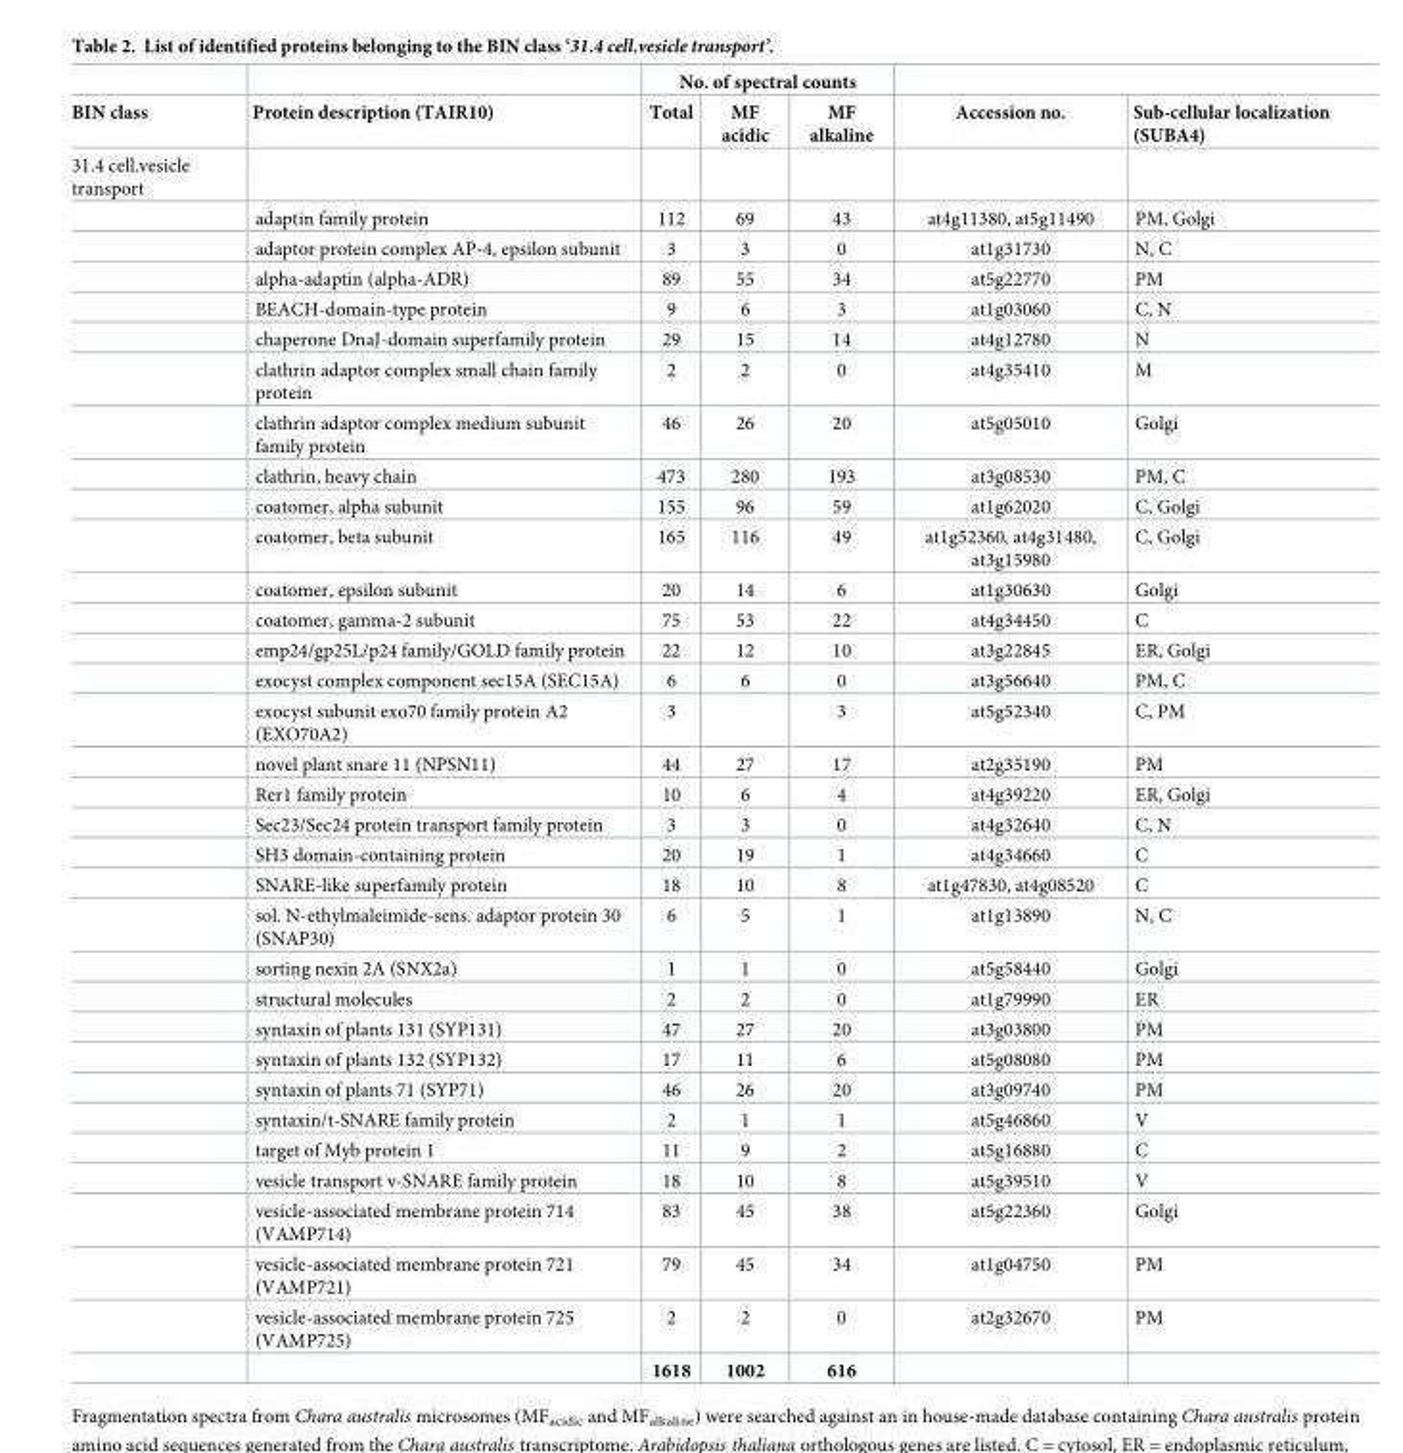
<table><thead><tr><td rowspan="2">BIN class</td><td rowspan="2">Protein description (TAIR10)</td><td colspan="3">No. of spectral counts</td><td rowspan="2">Accession no.</td><td rowspan="2">Sub-cellular localization (SUBA4)</td></tr><tr><td>Total</td><td>MF acidic</td><td>MF alkaline</td></tr></thead><tbody><tr><td colspan="7">31.4 cell.vesicle transport</td></tr><tr><td></td><td>adaptin family protein</td><td>112</td><td>69</td><td>43</td><td>at4g11380, at5g11490</td><td>PM, Golgi</td></tr><tr><td></td><td>adaptor protein complex AP-4, epsilon subunit</td><td>3</td><td>3</td><td>0</td><td>at1g31730</td><td>N, C</td></tr><tr><td></td><td>alpha-adaptin (alpha-ADR)</td><td>89</td><td>55</td><td>34</td><td>at5g22770</td><td>PM</td></tr><tr><td></td><td>BEACH-domain-type protein</td><td>9</td><td>6</td><td>3</td><td>at1g03060</td><td>C, N</td></tr><tr><td></td><td>chaperone DnaJ-domain superfamily protein</td><td>29</td><td>15</td><td>14</td><td>at4g12780</td><td>N</td></tr><tr><td></td><td>clathrin adaptor complex small chain family protein</td><td>2</td><td>2</td><td>0</td><td>at4g35410</td><td>M</td></tr><tr><td></td><td>clathrin adaptor complex medium subunit family protein</td><td>46</td><td>26</td><td>20</td><td>at5g05010</td><td>Golgi</td></tr><tr><td></td><td>clathrin, heavy chain</td><td>473</td><td>280</td><td>193</td><td>at3g08530</td><td>PM, C</td></tr><tr><td></td><td>coatomer, alpha subunit</td><td>155</td><td>96</td><td>59</td><td>at1g62020</td><td>C, Golgi</td></tr><tr><td></td><td>coatomer, beta subunit</td><td>165</td><td>116</td><td>49</td><td>at1g52360, at4g31480, at3g15980</td><td>C, Golgi</td></tr><tr><td></td><td>coatomer, epsilon subunit</td><td>20</td><td>14</td><td>6</td><td>at1g30630</td><td>Golgi</td></tr><tr><td></td><td>coatomer, gamma-2 subunit</td><td>75</td><td>53</td><td>22</td><td>at4g34450</td><td>C</td></tr><tr><td></td><td>emp24/gp25L/p24 family/GOLD family protein</td><td>22</td><td>12</td><td>10</td><td>at3g22845</td><td>ER, Golgi</td></tr><tr><td></td><td>exocyst complex component sec15A (SEC15A)</td><td>6</td><td>6</td><td>0</td><td>at3g56640</td><td>PM, C</td></tr><tr><td></td><td>exocyst subunit exo70 family protein A2 (EXO70A2)</td><td>3</td><td></td><td>3</td><td>at5g52340</td><td>C, PM</td></tr><tr><td></td><td>novel plant snare 11 (NPSN11)</td><td>44</td><td>27</td><td>17</td><td>at2g35190</td><td>PM</td></tr><tr><td></td><td>Rer1 family protein</td><td>10</td><td>6</td><td>4</td><td>at4g39220</td><td>ER, Golgi</td></tr><tr><td></td><td>Sec23/Sec24 protein transport family protein</td><td>3</td><td>3</td><td>0</td><td>at4g32640</td><td>C, N</td></tr><tr><td></td><td>SH3 domain-containing protein</td><td>20</td><td>19</td><td>1</td><td>at4g34660</td><td>C</td></tr><tr><td></td><td>SNARE-like superfamily protein</td><td>18</td><td>10</td><td>8</td><td>at1g47830, at4g08520</td><td>C</td></tr><tr><td></td><td>sol. N-ethylmaleimide-sens. adaptor protein 30 (SNAP30)</td><td>6</td><td>5</td><td>1</td><td>at1g13890</td><td>N, C</td></tr><tr><td></td><td>sorting nexin 2A (SNX2a)</td><td>1</td><td>1</td><td>0</td><td>at5g58440</td><td>Golgi</td></tr><tr><td></td><td>structural molecules</td><td>2</td><td>2</td><td>0</td><td>at1g79990</td><td>ER</td></tr><tr><td></td><td>syntaxin of plants 131 (SYP131)</td><td>47</td><td>27</td><td>20</td><td>at3g03800</td><td>PM</td></tr><tr><td></td><td>syntaxin of plants 132 (SYP132)</td><td>17</td><td>11</td><td>6</td><td>at5g08080</td><td>PM</td></tr><tr><td></td><td>syntaxin of plants 71 (SYP71)</td><td>46</td><td>26</td><td>20</td><td>at3g09740</td><td>PM</td></tr><tr><td></td><td>syntaxin/t-SNARE family protein</td><td>2</td><td>1</td><td>1</td><td>at5g46860</td><td>V</td></tr><tr><td></td><td>target of Myb protein 1</td><td>11</td><td>9</td><td>2</td><td>at5g16880</td><td>C</td></tr><tr><td></td><td>vesicle transport v-SNARE family protein</td><td>18</td><td>10</td><td>8</td><td>at5g39510</td><td>V</td></tr><tr><td></td><td>vesicle-associated membrane protein 714 (VAMP714)</td><td>83</td><td>45</td><td>38</td><td>at5g22360</td><td>Golgi</td></tr><tr><td></td><td>vesicle-associated membrane protein 721 (VAMP721)</td><td>79</td><td>45</td><td>34</td><td>at1g04750</td><td>PM</td></tr><tr><td></td><td>vesicle-associated membrane protein 725 (VAMP725)</td><td>2</td><td>2</td><td>0</td><td>at2g32670</td><td>PM</td></tr><tr><td></td><td></td><td>1618</td><td>1002</td><td>616</td><td></td><td></td></tr></tbody></table>